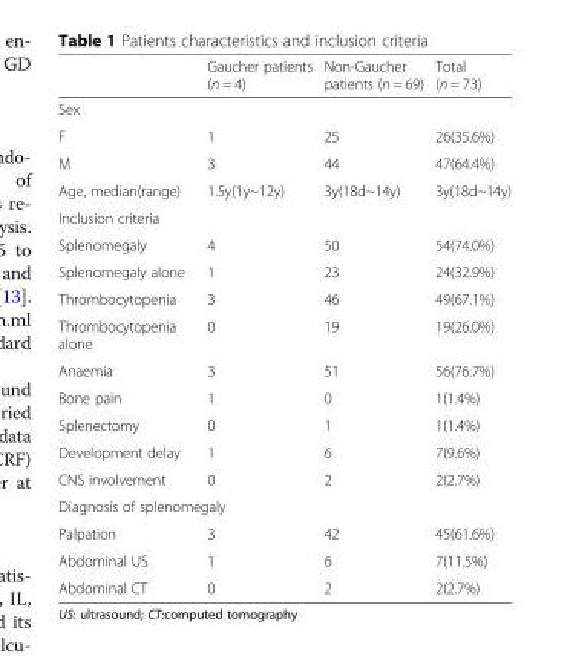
<table><thead><tr><td></td><td>Gaucher patients (n = 4)</td><td>Non-Gaucher patients (n = 69)</td><td>Total (n = 73)</td></tr></thead><tbody><tr><td colspan="4">Sex</td></tr><tr><td>F</td><td>1</td><td>25</td><td>26(35.6%)</td></tr><tr><td>M</td><td>3</td><td>44</td><td>47(64.4%)</td></tr><tr><td>Age, median(range)</td><td>1.5y(1y~12y)</td><td>3y(18d~14y)</td><td>3y(18d~14y)</td></tr><tr><td colspan="4">Inclusion criteria</td></tr><tr><td>Splenomegaly</td><td>4</td><td>50</td><td>54(74.0%)</td></tr><tr><td>Splenomegaly alone</td><td>1</td><td>23</td><td>24(32.9%)</td></tr><tr><td>Thrombocytopenia</td><td>3</td><td>46</td><td>49(67.1%)</td></tr><tr><td>Thrombocytopenia alone</td><td>0</td><td>19</td><td>19(26.0%)</td></tr><tr><td>Anaemia</td><td>3</td><td>51</td><td>56(76.7%)</td></tr><tr><td>Bone pain</td><td>1</td><td>0</td><td>1(1.4%)</td></tr><tr><td>Splenectomy</td><td>0</td><td>1</td><td>1(1.4%)</td></tr><tr><td>Development delay</td><td>1</td><td>6</td><td>7(9.6%)</td></tr><tr><td>CNS involvement</td><td>0</td><td>2</td><td>2(2.7%)</td></tr><tr><td colspan="4">Diagnosis of splenomegaly</td></tr><tr><td>Palpation</td><td>3</td><td>42</td><td>45(61.6%)</td></tr><tr><td>Abdominal US</td><td>1</td><td>6</td><td>7(11.5%)</td></tr><tr><td>Abdominal CT</td><td>0</td><td>2</td><td>2(2.7%)</td></tr></tbody></table>